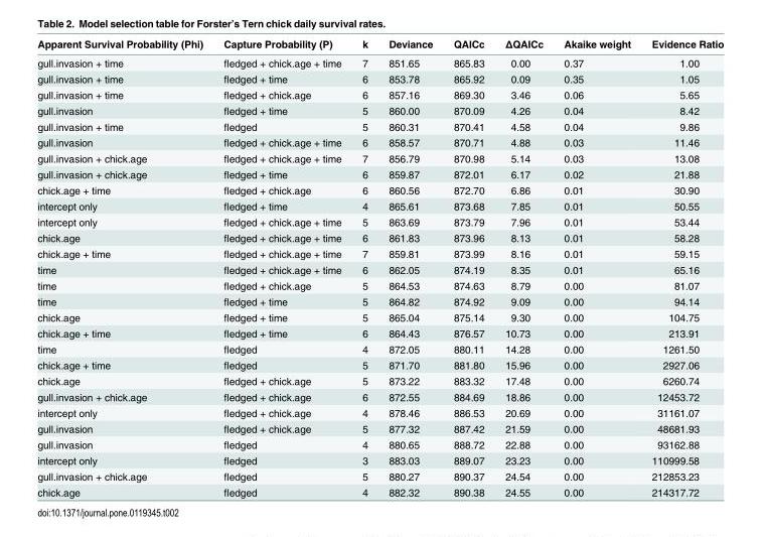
<table><thead><tr><td>Apparent Survival Probability (Phi)</td><td>Capture Probability (P)</td><td>k</td><td>Deviance</td><td>QAICc</td><td>ΔQAICc</td><td>Akaike weight</td><td>Evidence Ratio</td></tr></thead><tbody><tr><td>gull.invasion + time</td><td>fledged + chick.age + time</td><td>7</td><td>851.65</td><td>865.83</td><td>0.00</td><td>0.37</td><td>1.00</td></tr><tr><td>gull.invasion + time</td><td>fledged + time</td><td>6</td><td>853.78</td><td>865.92</td><td>0.09</td><td>0.35</td><td>1.05</td></tr><tr><td>gull.invasion + time</td><td>fledged + chick.age</td><td>6</td><td>857.16</td><td>869.30</td><td>3.46</td><td>0.06</td><td>5.65</td></tr><tr><td>gull.invasion</td><td>fledged + time</td><td>5</td><td>860.00</td><td>870.09</td><td>4.26</td><td>0.04</td><td>8.42</td></tr><tr><td>gull.invasion + time</td><td>fledged</td><td>5</td><td>860.31</td><td>870.41</td><td>4.58</td><td>0.04</td><td>9.86</td></tr><tr><td>gull.invasion</td><td>fledged + chick.age + time</td><td>6</td><td>858.57</td><td>870.71</td><td>4.88</td><td>0.03</td><td>11.46</td></tr><tr><td>gull.invasion + chick.age</td><td>fledged + chick.age + time</td><td>7</td><td>856.79</td><td>870.98</td><td>5.14</td><td>0.03</td><td>13.08</td></tr><tr><td>gull.invasion + chick.age</td><td>fledged + time</td><td>6</td><td>859.87</td><td>872.01</td><td>6.17</td><td>0.02</td><td>21.88</td></tr><tr><td>chick.age + time</td><td>fledged + chick.age</td><td>6</td><td>860.56</td><td>872.70</td><td>6.86</td><td>0.01</td><td>30.90</td></tr><tr><td>intercept only</td><td>fledged + time</td><td>4</td><td>865.61</td><td>873.68</td><td>7.85</td><td>0.01</td><td>50.55</td></tr><tr><td>intercept only</td><td>fledged + chick.age + time</td><td>5</td><td>863.69</td><td>873.79</td><td>7.96</td><td>0.01</td><td>53.44</td></tr><tr><td>chick.age</td><td>fledged + chick.age + time</td><td>6</td><td>861.83</td><td>873.96</td><td>8.13</td><td>0.01</td><td>58.28</td></tr><tr><td>chick.age + time</td><td>fledged + chick.age + time</td><td>7</td><td>859.81</td><td>873.99</td><td>8.16</td><td>0.01</td><td>59.15</td></tr><tr><td>time</td><td>fledged + chick.age + time</td><td>6</td><td>862.05</td><td>874.19</td><td>8.35</td><td>0.01</td><td>65.16</td></tr><tr><td>time</td><td>fledged + chick.age</td><td>5</td><td>864.53</td><td>874.63</td><td>8.79</td><td>0.00</td><td>81.07</td></tr><tr><td>time</td><td>fledged + time</td><td>5</td><td>864.82</td><td>874.92</td><td>9.09</td><td>0.00</td><td>94.14</td></tr><tr><td>chick.age</td><td>fledged + time</td><td>5</td><td>865.04</td><td>875.14</td><td>9.30</td><td>0.00</td><td>104.75</td></tr><tr><td>chick.age + time</td><td>fledged + time</td><td>6</td><td>864.43</td><td>876.57</td><td>10.73</td><td>0.00</td><td>213.91</td></tr><tr><td>time</td><td>fledged</td><td>4</td><td>872.05</td><td>880.11</td><td>14.28</td><td>0.00</td><td>1261.50</td></tr><tr><td>chick.age + time</td><td>fledged</td><td>5</td><td>871.70</td><td>881.80</td><td>15.96</td><td>0.00</td><td>2927.06</td></tr><tr><td>chick.age</td><td>fledged + chick.age</td><td>5</td><td>873.22</td><td>883.32</td><td>17.48</td><td>0.00</td><td>6260.74</td></tr><tr><td>gull.invasion + chick.age</td><td>fledged + chick.age</td><td>6</td><td>872.55</td><td>884.69</td><td>18.86</td><td>0.00</td><td>12453.72</td></tr><tr><td>intercept only</td><td>fledged + chick.age</td><td>4</td><td>878.46</td><td>886.53</td><td>20.69</td><td>0.00</td><td>31161.07</td></tr><tr><td>gull.invasion</td><td>fledged + chick.age</td><td>5</td><td>877.32</td><td>887.42</td><td>21.59</td><td>0.00</td><td>48681.93</td></tr><tr><td>gull.invasion</td><td>fledged</td><td>4</td><td>880.65</td><td>888.72</td><td>22.88</td><td>0.00</td><td>93162.88</td></tr><tr><td>intercept only</td><td>fledged</td><td>3</td><td>883.03</td><td>889.07</td><td>23.23</td><td>0.00</td><td>110999.58</td></tr><tr><td>gull.invasion + chick.age</td><td>fledged</td><td>5</td><td>880.27</td><td>890.37</td><td>24.54</td><td>0.00</td><td>212853.23</td></tr><tr><td>chick.age</td><td>fledged</td><td>4</td><td>882.32</td><td>890.38</td><td>24.55</td><td>0.00</td><td>214317.72</td></tr></tbody></table>